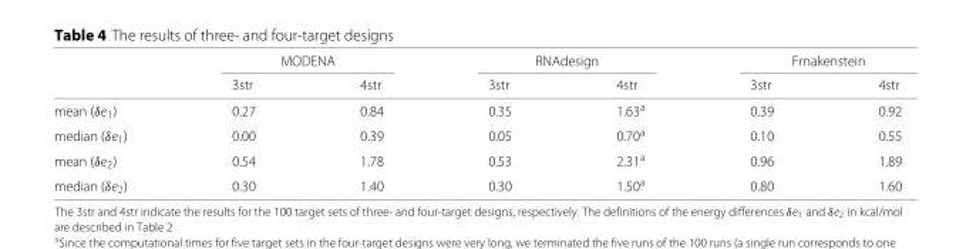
<table><thead><tr><td rowspan="2"></td><td colspan="2">MODENA</td><td colspan="2">RNAdesign</td><td colspan="2">Frnakenstein</td></tr><tr><td>3str</td><td>4str</td><td>3str</td><td>4str</td><td>3str</td><td>4str</td></tr></thead><tbody><tr><td>mean (δe<sub>1</sub>)</td><td>0.27</td><td>0.84</td><td>0.35</td><td>1.63<sup>a</sup></td><td>0.39</td><td>0.92</td></tr><tr><td>median (δe<sub>1</sub>)</td><td>0.00</td><td>0.39</td><td>0.05</td><td>0.70<sup>a</sup></td><td>0.10</td><td>0.55</td></tr><tr><td>mean (δe<sub>2</sub>)</td><td>0.54</td><td>1.78</td><td>0.53</td><td>2.31<sup>a</sup></td><td>0.96</td><td>1.89</td></tr><tr><td>median (δe<sub>2</sub>)</td><td>0.30</td><td>1.40</td><td>0.30</td><td>1.50<sup>a</sup></td><td>0.80</td><td>1.60</td></tr></tbody></table>